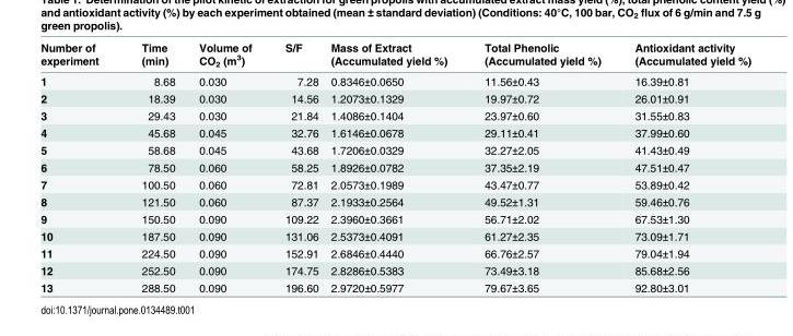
<table><thead><tr><td>Number of experiment</td><td>Time (min)</td><td>Volume of CO<sub>2</sub> (m<sup>3</sup>)</td><td>S/F</td><td>Mass of Extract (Accumulated yield %)</td><td>Total Phenolic (Accumulated yield %)</td><td>Antioxidant activity (Accumulated yield %)</td></tr></thead><tbody><tr><td>1</td><td>8.68</td><td>0.030</td><td>7.28</td><td>0.8346±0.0650</td><td>11.56±0.43</td><td>16.39±0.81</td></tr><tr><td>2</td><td>18.39</td><td>0.030</td><td>14.56</td><td>1.2073±0.1329</td><td>19.97±0.72</td><td>26.01±0.91</td></tr><tr><td>3</td><td>29.43</td><td>0.030</td><td>21.84</td><td>1.4086±0.1404</td><td>23.97±0.60</td><td>31.55±0.83</td></tr><tr><td>4</td><td>45.68</td><td>0.045</td><td>32.76</td><td>1.6146±0.0678</td><td>29.11±0.41</td><td>37.99±0.60</td></tr><tr><td>5</td><td>58.68</td><td>0.045</td><td>43.68</td><td>1.7206±0.0329</td><td>32.27±2.05</td><td>41.43±0.49</td></tr><tr><td>6</td><td>78.50</td><td>0.060</td><td>58.25</td><td>1.8926±0.0782</td><td>37.35±2.19</td><td>47.51±0.47</td></tr><tr><td>7</td><td>100.50</td><td>0.060</td><td>72.81</td><td>2.0573±0.1989</td><td>43.47±0.77</td><td>53.89±0.42</td></tr><tr><td>8</td><td>121.50</td><td>0.060</td><td>87.37</td><td>2.1933±0.2564</td><td>49.52±1.31</td><td>59.46±0.76</td></tr><tr><td>9</td><td>150.50</td><td>0.090</td><td>109.22</td><td>2.3960±0.3661</td><td>56.71±2.02</td><td>67.53±1.30</td></tr><tr><td>10</td><td>187.50</td><td>0.090</td><td>131.06</td><td>2.5373±0.4091</td><td>61.27±2.35</td><td>73.09±1.71</td></tr><tr><td>11</td><td>224.50</td><td>0.090</td><td>152.91</td><td>2.6846±0.4440</td><td>66.76±2.57</td><td>79.04±1.94</td></tr><tr><td>12</td><td>252.50</td><td>0.090</td><td>174.75</td><td>2.8286±0.5383</td><td>73.49±3.18</td><td>85.68±2.56</td></tr><tr><td>13</td><td>288.50</td><td>0.090</td><td>196.60</td><td>2.9720±0.5977</td><td>79.67±3.65</td><td>92.80±3.01</td></tr></tbody></table>